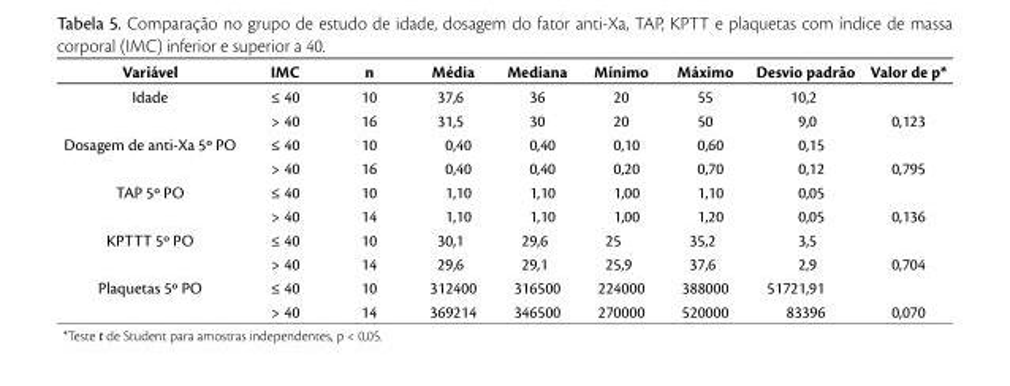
<table><thead><tr><td>Variável</td><td>IMC</td><td>n</td><td>Média</td><td>Mediana</td><td>Mínimo</td><td>Máximo</td><td>Desvio padrão</td><td>Valor de p*</td></tr></thead><tbody><tr><td rowspan="2">Idade</td><td>≤ 40</td><td>10</td><td>37,6</td><td>36</td><td>20</td><td>55</td><td>10,2</td><td></td></tr><tr><td>&gt; 40</td><td>16</td><td>31,5</td><td>30</td><td>20</td><td>50</td><td>9,0</td><td>0,123</td></tr><tr><td rowspan="2">Dosagem de anti-Xa 5º PO</td><td>≤ 40</td><td>10</td><td>0,40</td><td>0,40</td><td>0,10</td><td>0,60</td><td>0,15</td><td></td></tr><tr><td>&gt; 40</td><td>16</td><td>0,40</td><td>0,40</td><td>0,20</td><td>0,70</td><td>0,12</td><td>0,795</td></tr><tr><td rowspan="2">TAP 5º PO</td><td>≤ 40</td><td>10</td><td>1,10</td><td>1,10</td><td>1,00</td><td>1,10</td><td>0,05</td><td></td></tr><tr><td>&gt; 40</td><td>14</td><td>1,10</td><td>1,10</td><td>1,00</td><td>1,20</td><td>0,05</td><td>0,136</td></tr><tr><td rowspan="2">KPTTT 5º PO</td><td>≤ 40</td><td>10</td><td>30,1</td><td>29,6</td><td>25</td><td>35,2</td><td>3,5</td><td></td></tr><tr><td>&gt; 40</td><td>14</td><td>29,6</td><td>29,1</td><td>25,9</td><td>37,6</td><td>2,9</td><td>0,704</td></tr><tr><td rowspan="2">Plaquetas 5º PO</td><td>≤ 40</td><td>10</td><td>312400</td><td>316500</td><td>224000</td><td>388000</td><td>51721,91</td><td></td></tr><tr><td>&gt; 40</td><td>14</td><td>369214</td><td>346500</td><td>270000</td><td>520000</td><td>83396</td><td>0,070</td></tr></tbody></table>